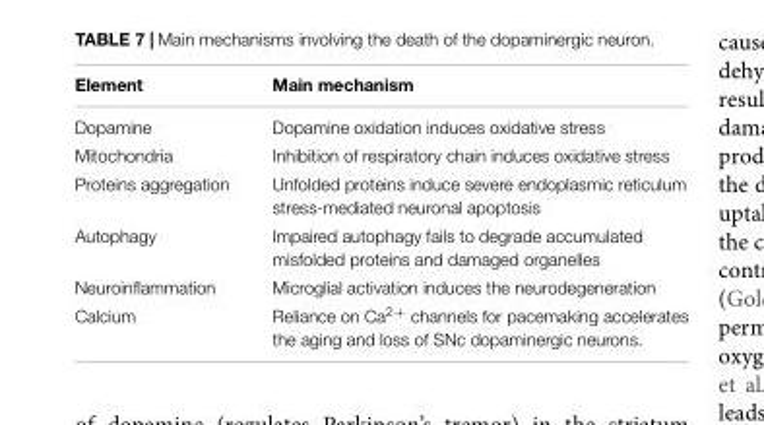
<table><thead><tr><td>Element</td><td>Main mechanism</td></tr></thead><tbody><tr><td>Dopamine</td><td>Dopamine oxidation induces oxidative stress</td></tr><tr><td>Mitochondria</td><td>Inhibition of respiratory chain induces oxidative stress</td></tr><tr><td>Proteins aggregation</td><td>Unfolded proteins induce severe endoplasmic reticulum stress-mediated neuronal apoptosis</td></tr><tr><td>Autophagy</td><td>Impaired autophagy fails to degrade accumulated misfolded proteins and damaged organelles</td></tr><tr><td>Neuroinflammation</td><td>Microglial activation induces the neurodegeneration</td></tr><tr><td>Calcium</td><td>Reliance on Ca<sup>2+</sup> channels for pacemaking accelerates the aging and loss of SNc dopaminergic neurons.</td></tr></tbody></table>